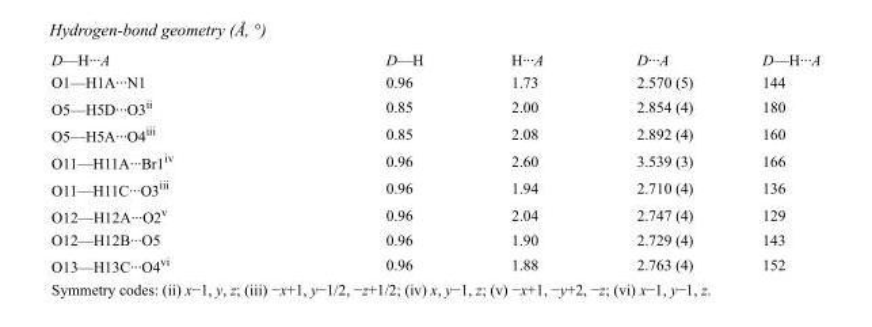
<table><tbody><tr><td>D—H···A</td><td>D—H</td><td>H···A</td><td>D···A</td><td>D—H···A</td></tr><tr><td>O1—H1A···N1</td><td>0.96</td><td>1.73</td><td>2.570 (5)</td><td>144</td></tr><tr><td>O5—H5D···O3<sup>ii</sup></td><td>0.85</td><td>2.00</td><td>2.854 (4)</td><td>180</td></tr><tr><td>O5—H5A···O4<sup>iii</sup></td><td>0.85</td><td>2.08</td><td>2.892 (4)</td><td>160</td></tr><tr><td>O11—H11A···Br1<sup>iv</sup></td><td>0.96</td><td>2.60</td><td>3.539 (3)</td><td>166</td></tr><tr><td>O11—H11C···O3<sup>iii</sup></td><td>0.96</td><td>1.94</td><td>2.710 (4)</td><td>136</td></tr><tr><td>O12—H12A···O2<sup>v</sup></td><td>0.96</td><td>2.04</td><td>2.747 (4)</td><td>129</td></tr><tr><td>O12—H12B···O5</td><td>0.96</td><td>1.90</td><td>2.729 (4)</td><td>143</td></tr><tr><td>O13—H13C···O4<sup>vi</sup></td><td>0.96</td><td>1.88</td><td>2.763 (4)</td><td>152</td></tr></tbody></table>